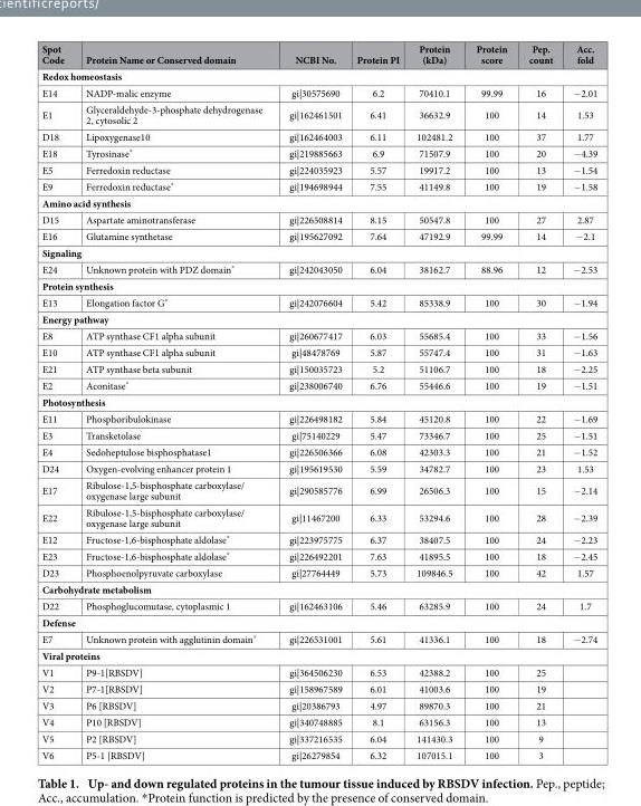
<table><thead><tr><td>Spot Code</td><td>Protein Name or Conserved domain</td><td>NCBI No.</td><td>Protein PI</td><td>Protein (kDa)</td><td>Protein score</td><td>Pep. count</td><td>Acc. fold</td></tr></thead><tbody><tr><td colspan="8">Redox homeostasis</td></tr><tr><td>E14</td><td>NADP-malic enzyme</td><td>gi|30575690</td><td>6.2</td><td>70410.1</td><td>99.99</td><td>16</td><td>− 2.01</td></tr><tr><td>E1</td><td>Glyceraldehyde-3-phosphate dehydrogenase 2, cytosolic 2</td><td>gi|162461501</td><td>6.41</td><td>36632.9</td><td>100</td><td>14</td><td>1.53</td></tr><tr><td>D18</td><td>Lipoxygenase10</td><td>gi|162464003</td><td>6.11</td><td>102481.2</td><td>100</td><td>37</td><td>1.77</td></tr><tr><td>E18</td><td>Tyrosinase*</td><td>gi|219885663</td><td>6.9</td><td>71507.9</td><td>100</td><td>20</td><td>− 4.39</td></tr><tr><td>E5</td><td>Ferredoxin reductase</td><td>gi|224035923</td><td>5.57</td><td>19917.2</td><td>100</td><td>13</td><td>− 1.54</td></tr><tr><td>E9</td><td>Ferredoxin reductase*</td><td>gi|194698944</td><td>7.55</td><td>41149.8</td><td>100</td><td>19</td><td>− 1.58</td></tr><tr><td colspan="8">Amino acid synthesis</td></tr><tr><td>D15</td><td>Aspartate aminotransferase</td><td>gi|226508814</td><td>8.15</td><td>50547.8</td><td>100</td><td>27</td><td>2.87</td></tr><tr><td>E16</td><td>Glutamine synthetase</td><td>gi|195627092</td><td>7.64</td><td>47192.9</td><td>99.99</td><td>14</td><td>− 2.1</td></tr><tr><td colspan="8">Signaling</td></tr><tr><td>E24</td><td>Unknown protein with PDZ domain*</td><td>gi|242043050</td><td>6.04</td><td>38162.7</td><td>88.96</td><td>12</td><td>− 2.53</td></tr><tr><td colspan="8">Protein synthesis</td></tr><tr><td>E13</td><td>Elongation factor G*</td><td>gi|242076604</td><td>5.42</td><td>85338.9</td><td>100</td><td>30</td><td>− 1.94</td></tr><tr><td colspan="8">Energy pathway</td></tr><tr><td>E8</td><td>ATP synthase CF1 alpha subunit</td><td>gi|260677417</td><td>6.03</td><td>55685.4</td><td>100</td><td>33</td><td>− 1.56</td></tr><tr><td>E10</td><td>ATP synthase CF1 alpha subunit</td><td>gi|48478769</td><td>5.87</td><td>55747.4</td><td>100</td><td>31</td><td>− 1.63</td></tr><tr><td>E21</td><td>ATP synthase beta subunit</td><td>gi|150035723</td><td>5.2</td><td>51106.7</td><td>100</td><td>18</td><td>− 2.25</td></tr><tr><td>E2</td><td>Aconitase*</td><td>gi|238006740</td><td>6.76</td><td>55446.6</td><td>100</td><td>19</td><td>− 1.51</td></tr><tr><td colspan="8">Photosynthesis</td></tr><tr><td>E11</td><td>Phosphoribulokinase</td><td>gi|226498182</td><td>5.84</td><td>45120.8</td><td>100</td><td>22</td><td>− 1.69</td></tr><tr><td>E3</td><td>Transketolase</td><td>gi|75140229</td><td>5.47</td><td>73346.7</td><td>100</td><td>25</td><td>− 1.51</td></tr><tr><td>E4</td><td>Sedoheptulose bisphosphatase1</td><td>gi|226506366</td><td>6.08</td><td>42303.3</td><td>100</td><td>21</td><td>− 1.52</td></tr><tr><td>D24</td><td>Oxygen-evolving enhancer protein 1</td><td>gi|195619530</td><td>5.59</td><td>34782.7</td><td>100</td><td>23</td><td>1.53</td></tr><tr><td>E17</td><td>Ribulose-1,5-bisphosphate carboxylase/ oxygenase large subunit</td><td>gi|290585776</td><td>6.99</td><td>26506.3</td><td>100</td><td>15</td><td>− 2.14</td></tr><tr><td>E22</td><td>Ribulose-1,5-bisphosphate carboxylase/ oxygenase large subunit</td><td>gi|11467200</td><td>6.33</td><td>53294.6</td><td>100</td><td>28</td><td>− 2.39</td></tr><tr><td>E12</td><td>Fructose-1,6-bisphosphate aldolase*</td><td>gi|223975775</td><td>6.37</td><td>38407.5</td><td>100</td><td>24</td><td>− 2.23</td></tr><tr><td>E23</td><td>Fructose-1,6-bisphosphate aldolase*</td><td>gi|226492201</td><td>7.63</td><td>41895.5</td><td>100</td><td>18</td><td>− 2.45</td></tr><tr><td>D23</td><td>Phosphoenolpyruvate carboxylase</td><td>gi|27764449</td><td>5.73</td><td>109846.5</td><td>100</td><td>42</td><td>1.57</td></tr><tr><td colspan="8">Carbohydrate metabolism</td></tr><tr><td>D22</td><td>Phosphoglucomutase, cytoplasmic 1</td><td>gi|162463106</td><td>5.46</td><td>63285.9</td><td>100</td><td>24</td><td>1.7</td></tr><tr><td colspan="8">Defense</td></tr><tr><td>E7</td><td>Unknown protein with agglutinin domain*</td><td>gi|226531001</td><td>5.61</td><td>41336.1</td><td>100</td><td>18</td><td>− 2.74</td></tr><tr><td colspan="8">Viral proteins</td></tr><tr><td>V1</td><td>P9-1[RBSDV]</td><td>gi|364506230</td><td>6.53</td><td>42388.2</td><td>100</td><td>25</td><td></td></tr><tr><td>V2</td><td>P7-1[RBSDV]</td><td>gi|158967589</td><td>6.01</td><td>41003.6</td><td>100</td><td>19</td><td></td></tr><tr><td>V3</td><td>P6 [RBSDV]</td><td>gi|20386793</td><td>4.97</td><td>89870.3</td><td>100</td><td>21</td><td></td></tr><tr><td>V4</td><td>P10 [RBSDV]</td><td>gi|340748885</td><td>8.1</td><td>63156.3</td><td>100</td><td>13</td><td></td></tr><tr><td>V5</td><td>P2 [RBSDV]</td><td>gi|337216535</td><td>6.04</td><td>141430.3</td><td>100</td><td>9</td><td></td></tr><tr><td>V6</td><td>P5-1 [RBSDV]</td><td>gi|26279854</td><td>6.32</td><td>107015.1</td><td>100</td><td>3</td><td></td></tr></tbody></table>